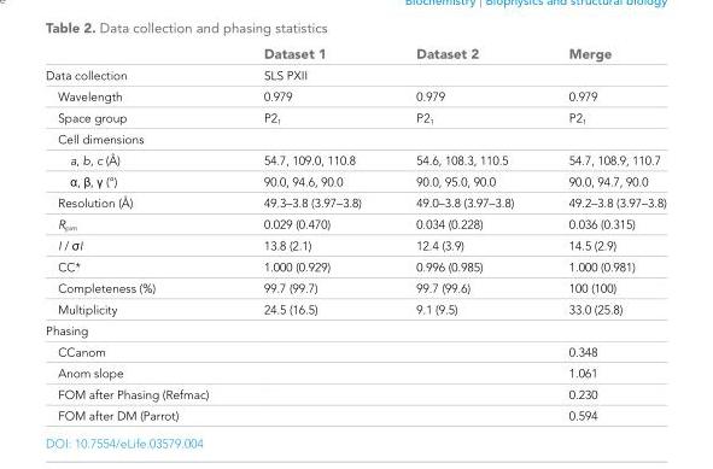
<table><thead><tr><td></td><td>Dataset 1</td><td>Dataset 2</td><td>Merge</td></tr></thead><tbody><tr><td>Data collection</td><td>SLS PXII</td><td></td><td></td></tr><tr><td>Wavelength</td><td>0.979</td><td>0.979</td><td>0.979</td></tr><tr><td>Space group</td><td>P2<sub>1</sub></td><td>P2<sub>1</sub></td><td>P2<sub>1</sub></td></tr><tr><td colspan="4">Cell dimensions</td></tr><tr><td>a, b, c (Å)</td><td>54.7, 109.0, 110.8</td><td>54.6, 108.3, 110.5</td><td>54.7, 108.9, 110.7</td></tr><tr><td>α, β, γ (°)</td><td>90.0, 94.6, 90.0</td><td>90.0, 95.0, 90.0</td><td>90.0, 94.7, 90.0</td></tr><tr><td>Resolution (Å)</td><td>49.3–3.8 (3.97–3.8)</td><td>49.0–3.8 (3.97–3.8)</td><td>49.2–3.8 (3.97–3.8)</td></tr><tr><td>R<sub>pim</sub></td><td>0.029 (0.470)</td><td>0.034 (0.228)</td><td>0.036 (0.315)</td></tr><tr><td>I / σI</td><td>13.8 (2.1)</td><td>12.4 (3.9)</td><td>14.5 (2.9)</td></tr><tr><td>CC*</td><td>1.000 (0.929)</td><td>0.996 (0.985)</td><td>1.000 (0.981)</td></tr><tr><td>Completeness (%)</td><td>99.7 (99.7)</td><td>99.7 (99.6)</td><td>100 (100)</td></tr><tr><td>Multiplicity</td><td>24.5 (16.5)</td><td>9.1 (9.5)</td><td>33.0 (25.8)</td></tr><tr><td colspan="4">Phasing</td></tr><tr><td>CCanom</td><td></td><td></td><td>0.348</td></tr><tr><td>Anom slope</td><td></td><td></td><td>1.061</td></tr><tr><td>FOM after Phasing (Refmac)</td><td></td><td></td><td>0.230</td></tr><tr><td>FOM after DM (Parrot)</td><td></td><td></td><td>0.594</td></tr></tbody></table>